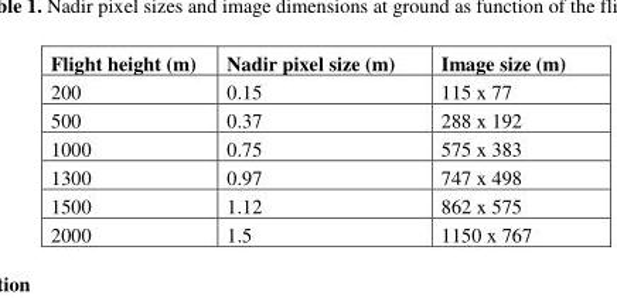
<table><thead><tr><td>Flight height (m)</td><td>Nadir pixel size (m)</td><td>Image size (m)</td></tr></thead><tbody><tr><td>200</td><td>0.15</td><td>115 x 77</td></tr><tr><td>500</td><td>0.37</td><td>288 x 192</td></tr><tr><td>1000</td><td>0.75</td><td>575 x 383</td></tr><tr><td>1300</td><td>0.97</td><td>747 x 498</td></tr><tr><td>1500</td><td>1.12</td><td>862 x 575</td></tr><tr><td>2000</td><td>1.5</td><td>1150 x 767</td></tr></tbody></table>